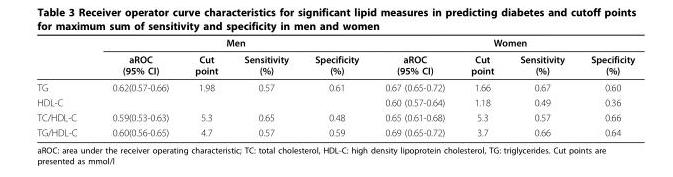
<table><thead><tr><td rowspan="2"></td><td colspan="4">Men</td><td colspan="4">Women</td></tr><tr><td>aROC (95% CI)</td><td>Cut point</td><td>Sensitivity (%)</td><td>Specificity (%)</td><td>aROC (95% CI)</td><td>Cut point</td><td>Sensitivity (%)</td><td>Specificity (%)</td></tr></thead><tbody><tr><td>TG</td><td>0.62(0.57-0.66)</td><td>1.98</td><td>0.57</td><td>0.61</td><td>0.67 (0.65-0.72)</td><td>1.66</td><td>0.67</td><td>0.60</td></tr><tr><td>HDL-C</td><td></td><td></td><td></td><td></td><td>0.60 (0.57-0.64)</td><td>1.18</td><td>0.49</td><td>0.36</td></tr><tr><td>TC/HDL-C</td><td>0.59(0.53-0.63)</td><td>5.3</td><td>0.65</td><td>0.48</td><td>0.65 (0.61-0.68)</td><td>5.3</td><td>0.57</td><td>0.66</td></tr><tr><td>TG/HDL-C</td><td>0.60(0.56-0.65)</td><td>4.7</td><td>0.57</td><td>0.59</td><td>0.69 (0.65-0.72)</td><td>3.7</td><td>0.66</td><td>0.64</td></tr></tbody></table>